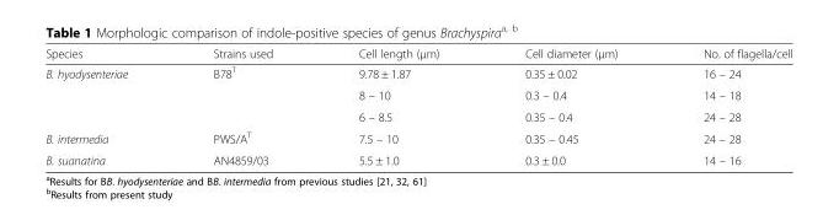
<table><thead><tr><td>Species</td><td>Strains used</td><td>Cell length (μm)</td><td>Cell diameter (μm)</td><td>No. of flagella/cell</td></tr></thead><tbody><tr><td rowspan="3">B. hyodysenteriae</td><td rowspan="3">B78<sup>T</sup></td><td>9.78 ± 1.87</td><td>0.35 ± 0.02</td><td>16 – 24</td></tr><tr><td>8 – 10</td><td>0.3 – 0.4</td><td>14 – 18</td></tr><tr><td>6 – 8.5</td><td>0.35 – 0.4</td><td>24 – 28</td></tr><tr><td>B. intermedia</td><td>PWS/A<sup>T</sup></td><td>7.5 – 10</td><td>0.35 – 0.45</td><td>24 – 28</td></tr><tr><td>B. suanatina</td><td>AN4859/03</td><td>5.5 ± 1.0</td><td>0.3 ± 0.0</td><td>14 – 16</td></tr></tbody></table>